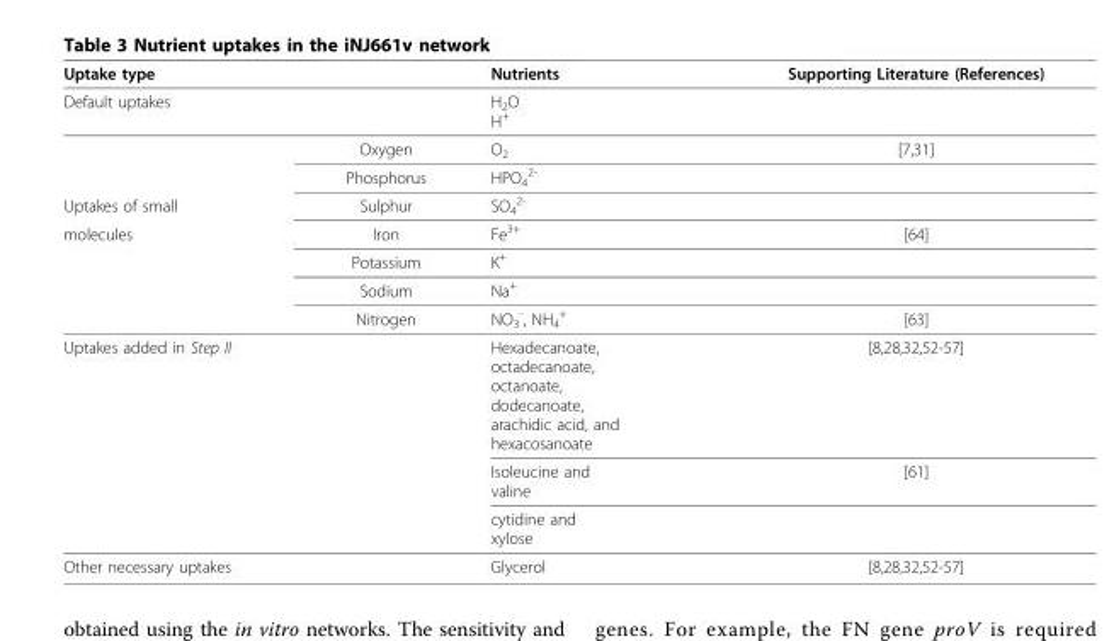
<table><thead><tr><td rowspan="2" colspan="2">Uptake type Default uptakes</td><td rowspan="3">Nutrients H2O H+ O2</td><td rowspan="3">Supporting Literature (References) [7,31]</td></tr><tr></tr><tr><td></td><td>Oxygen</td></tr></thead><tbody><tr><td></td><td>Phosphorus</td><td>HPO<sub>4</sub> <sup>2-</sup></td><td></td></tr><tr><td>Uptakes of small</td><td>Sulphur</td><td>SO<sub>4</sub> <sup>2-</sup></td><td></td></tr><tr><td rowspan="4">molecules</td><td>Iron</td><td>Fe<sup>3+</sup></td><td>[64]</td></tr><tr><td>Potassium</td><td>K<sup>+</sup></td><td></td></tr><tr><td>Sodium</td><td>Na<sup>+</sup></td><td></td></tr><tr><td>Nitrogen</td><td>NO<sub>3</sub> <sup>-</sup>, NH<sub>4</sub> <sup>+</sup></td><td>[63]</td></tr><tr><td colspan="2">Uptakes added in Step II</td><td>Hexadecanoate, octadecanoate, octanoate, dodecanoate, arachidic acid, and hexacosanoate</td><td>[8,28,32,52-57]</td></tr><tr><td></td><td></td><td>Isoleucine and valine</td><td>[61]</td></tr><tr><td></td><td></td><td>cytidine and xylose</td><td></td></tr><tr><td colspan="2">Other necessary uptakes</td><td>Glycerol</td><td>[8,28,32,52-57]</td></tr></tbody></table>